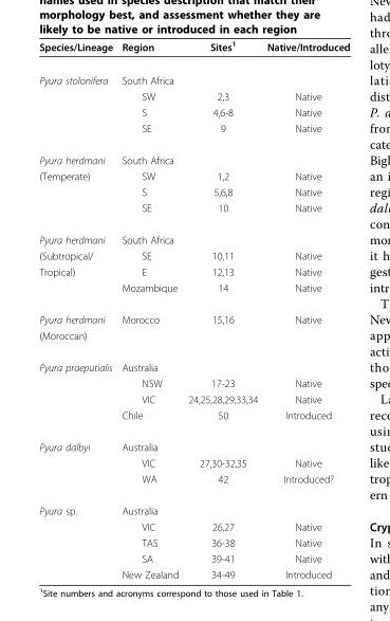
<table><thead><tr><td>Species/Lineage</td><td>Region</td><td>Sites<sup>1</sup></td><td>Native/Introduced</td></tr></thead><tbody><tr><td rowspan="4">Pyura stolonifera</td><td>South Africa</td><td></td><td></td></tr><tr><td>SW</td><td>2,3</td><td>Native</td></tr><tr><td>S</td><td>4,6-8</td><td>Native</td></tr><tr><td>SE</td><td>9</td><td>Native</td></tr><tr><td>Pyura herdmani</td><td>South Africa</td><td></td><td></td></tr><tr><td rowspan="3">(Temperate)</td><td>SW</td><td>1,2</td><td>Native</td></tr><tr><td>S</td><td>5,6,8</td><td>Native</td></tr><tr><td>SE</td><td>10</td><td>Native</td></tr><tr><td>Pyura herdmani</td><td>South Africa</td><td></td><td></td></tr><tr><td>(Subtropical/</td><td>SE</td><td>10,11</td><td>Native</td></tr><tr><td rowspan="2">Tropical)</td><td>E</td><td>12,13</td><td>Native</td></tr><tr><td>Mozambique</td><td>14</td><td>Native</td></tr><tr><td>Pyura herdmani</td><td>Morocco</td><td>15,16</td><td>Native</td></tr><tr><td colspan="4">(Moroccan)</td></tr><tr><td rowspan="4">Pyura praeputialis</td><td>Australia</td><td></td><td></td></tr><tr><td>NSW</td><td>17-23</td><td>Native</td></tr><tr><td>VIC</td><td>24,25,28,29,33,34</td><td>Native</td></tr><tr><td>Chile</td><td>50</td><td>Introduced</td></tr><tr><td rowspan="3">Pyura dalbyi</td><td>Australia</td><td></td><td></td></tr><tr><td>VIC</td><td>27,30-32,35</td><td>Native</td></tr><tr><td>WA</td><td>42</td><td>Introduced?</td></tr><tr><td rowspan="5">Pyura sp.</td><td>Australia</td><td></td><td></td></tr><tr><td>VIC</td><td>26,27</td><td>Native</td></tr><tr><td>TAS</td><td>36-38</td><td>Native</td></tr><tr><td>SA</td><td>39-41</td><td>Native</td></tr><tr><td>New Zealand</td><td>34-49</td><td>Introduced</td></tr></tbody></table>